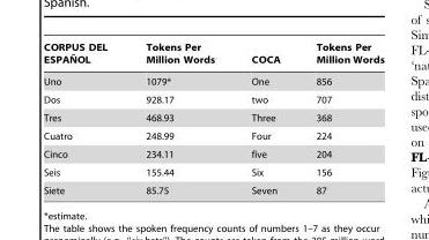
<table><thead><tr><td>CORPUS DEL ESPAN˜ OL</td><td>Tokens Per Million Words</td><td>COCA</td><td>Tokens Per Million Words</td></tr></thead><tbody><tr><td>Uno</td><td>1079*</td><td>One</td><td>856</td></tr><tr><td>Dos</td><td>928.17</td><td>two</td><td>707</td></tr><tr><td>Tres</td><td>468.93</td><td>Three</td><td>368</td></tr><tr><td>Cuatro</td><td>248.99</td><td>Four</td><td>224</td></tr><tr><td>Cinco</td><td>234.11</td><td>five</td><td>204</td></tr><tr><td>Seis</td><td>155.44</td><td>Six</td><td>156</td></tr><tr><td>Siete</td><td>85.75</td><td>Seven</td><td>87</td></tr></tbody></table>